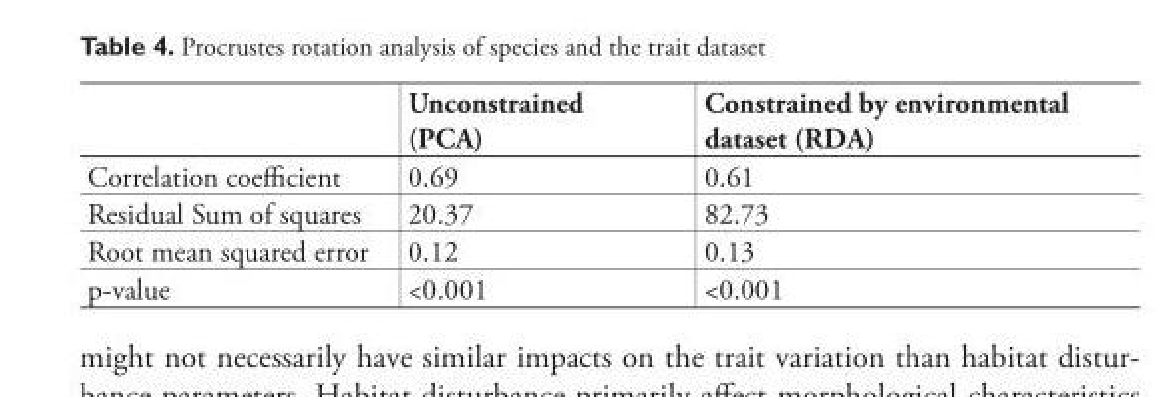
<table><thead><tr><td></td><td>Unconstrained (PCA)</td><td>Constrained by environmental dataset (RDA)</td></tr></thead><tbody><tr><td>Correlation coefficient</td><td>0.69</td><td>0.61</td></tr><tr><td>Residual Sum of squares</td><td>20.37</td><td>82.73</td></tr><tr><td>Root mean squared error</td><td>0.12</td><td>0.13</td></tr><tr><td>p-value</td><td>&lt;0.001</td><td>&lt;0.001</td></tr></tbody></table>